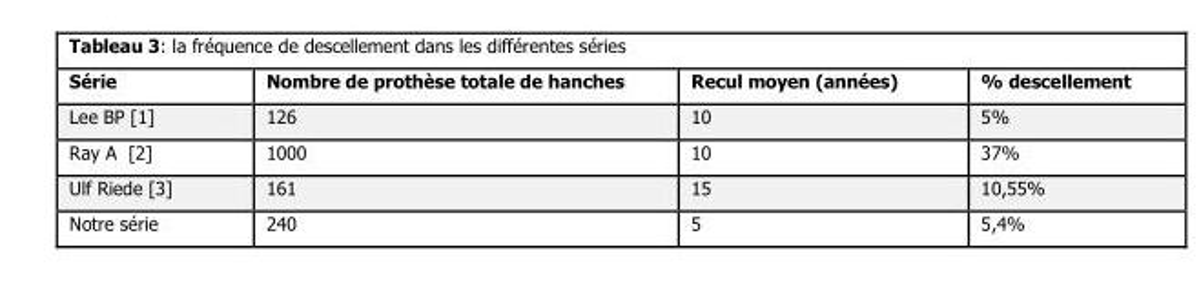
<table><thead><tr><td>Série</td><td>Nombre de prothèse totale de hanches</td><td>Recul moyen (années)</td><td>% descellement</td></tr></thead><tbody><tr><td>Lee BP [1]</td><td>126</td><td>10</td><td>5%</td></tr><tr><td>Ray A [2]</td><td>1000</td><td>10</td><td>37%</td></tr><tr><td>Ulf Riede [3]</td><td>161</td><td>15</td><td>10,55%</td></tr><tr><td>Notre série</td><td>240</td><td>5</td><td>5,4%</td></tr></tbody></table>